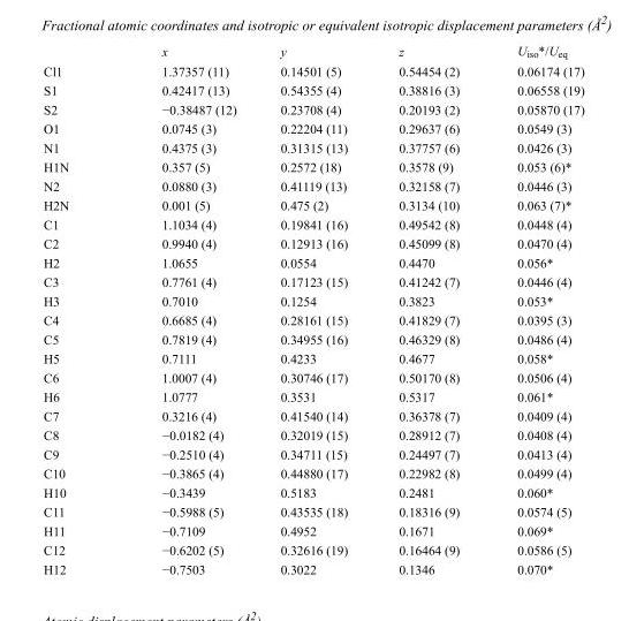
<table><thead><tr><td></td><td>x</td><td>y</td><td>z</td><td>U<sub>iso</sub>*/U<sub>eq</sub></td></tr></thead><tbody><tr><td>Cl1</td><td>1.37357 (11)</td><td>0.14501 (5)</td><td>0.54454 (2)</td><td>0.06174 (17)</td></tr><tr><td>S1</td><td>0.42417 (13)</td><td>0.54355 (4)</td><td>0.38816 (3)</td><td>0.06558 (19)</td></tr><tr><td>S2</td><td>−0.38487 (12)</td><td>0.23708 (4)</td><td>0.20193 (2)</td><td>0.05870 (17)</td></tr><tr><td>O1</td><td>0.0745 (3)</td><td>0.22204 (11)</td><td>0.29637 (6)</td><td>0.0549 (3)</td></tr><tr><td>N1</td><td>0.4375 (3)</td><td>0.31315 (13)</td><td>0.37757 (6)</td><td>0.0426 (3)</td></tr><tr><td>H1N</td><td>0.357 (5)</td><td>0.2572 (18)</td><td>0.3578 (9)</td><td>0.053 (6)*</td></tr><tr><td>N2</td><td>0.0880 (3)</td><td>0.41119 (13)</td><td>0.32158 (7)</td><td>0.0446 (3)</td></tr><tr><td>H2N</td><td>0.001 (5)</td><td>0.475 (2)</td><td>0.3134 (10)</td><td>0.063 (7)*</td></tr><tr><td>C1</td><td>1.1034 (4)</td><td>0.19841 (16)</td><td>0.49542 (8)</td><td>0.0448 (4)</td></tr><tr><td>C2</td><td>0.9940 (4)</td><td>0.12913 (16)</td><td>0.45099 (8)</td><td>0.0470 (4)</td></tr><tr><td>H2</td><td>1.0655</td><td>0.0554</td><td>0.4470</td><td>0.056*</td></tr><tr><td>C3</td><td>0.7761 (4)</td><td>0.17123 (15)</td><td>0.41242 (7)</td><td>0.0446 (4)</td></tr><tr><td>H3</td><td>0.7010</td><td>0.1254</td><td>0.3823</td><td>0.053*</td></tr><tr><td>C4</td><td>0.6685 (4)</td><td>0.28161 (15)</td><td>0.41829 (7)</td><td>0.0395 (3)</td></tr><tr><td>C5</td><td>0.7819 (4)</td><td>0.34955 (16)</td><td>0.46329 (8)</td><td>0.0486 (4)</td></tr><tr><td>H5</td><td>0.7111</td><td>0.4233</td><td>0.4677</td><td>0.058*</td></tr><tr><td>C6</td><td>1.0007 (4)</td><td>0.30746 (17)</td><td>0.50170 (8)</td><td>0.0506 (4)</td></tr><tr><td>H6</td><td>1.0777</td><td>0.3531</td><td>0.5317</td><td>0.061*</td></tr><tr><td>C7</td><td>0.3216 (4)</td><td>0.41540 (14)</td><td>0.36378 (7)</td><td>0.0409 (4)</td></tr><tr><td>C8</td><td>−0.0182 (4)</td><td>0.32019 (15)</td><td>0.28912 (7)</td><td>0.0408 (4)</td></tr><tr><td>C9</td><td>−0.2510 (4)</td><td>0.34711 (15)</td><td>0.24497 (7)</td><td>0.0413 (4)</td></tr><tr><td>C10</td><td>−0.3865 (4)</td><td>0.44880 (17)</td><td>0.22982 (8)</td><td>0.0499 (4)</td></tr><tr><td>H10</td><td>−0.3439</td><td>0.5183</td><td>0.2481</td><td>0.060*</td></tr><tr><td>C11</td><td>−0.5988 (5)</td><td>0.43535 (18)</td><td>0.18316 (9)</td><td>0.0574 (5)</td></tr><tr><td>H11</td><td>−0.7109</td><td>0.4952</td><td>0.1671</td><td>0.069*</td></tr><tr><td>C12</td><td>−0.6202 (5)</td><td>0.32616 (19)</td><td>0.16464 (9)</td><td>0.0586 (5)</td></tr><tr><td>H12</td><td>−0.7503</td><td>0.3022</td><td>0.1346</td><td>0.070*</td></tr></tbody></table>